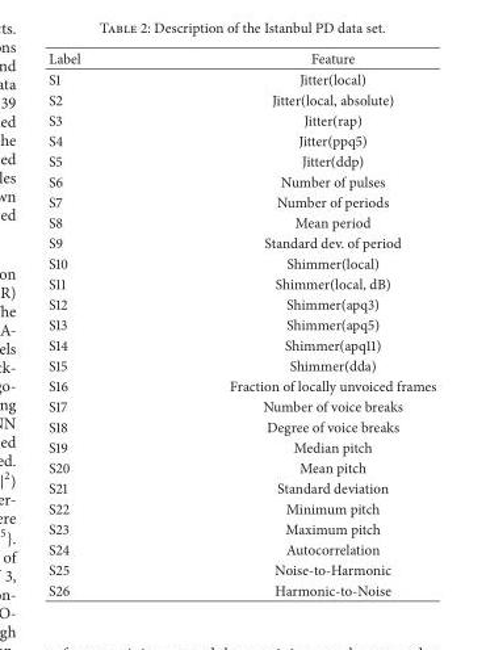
<table><thead><tr><td>Label</td><td>Feature</td></tr></thead><tbody><tr><td>S1</td><td>Jitter(local)</td></tr><tr><td>S2</td><td>Jitter(local, absolute)</td></tr><tr><td>S3</td><td>Jitter(rap)</td></tr><tr><td>S4</td><td>Jitter(ppq5)</td></tr><tr><td>S5</td><td>Jitter(ddp)</td></tr><tr><td>S6</td><td>Number of pulses</td></tr><tr><td>S7</td><td>Number of periods</td></tr><tr><td>S8</td><td>Mean period</td></tr><tr><td>S9</td><td>Standard dev. of period</td></tr><tr><td>S10</td><td>Shimmer(local)</td></tr><tr><td>S11</td><td>Shimmer(local, dB)</td></tr><tr><td>S12</td><td>Shimmer(apq3)</td></tr><tr><td>S13</td><td>Shimmer(apq5)</td></tr><tr><td>S14</td><td>Shimmer(apq11)</td></tr><tr><td>S15</td><td>Shimmer(dda)</td></tr><tr><td>S16</td><td>Fraction of locally unvoiced frames</td></tr><tr><td>S17</td><td>Number of voice breaks</td></tr><tr><td>S18</td><td>Degree of voice breaks</td></tr><tr><td>S19</td><td>Median pitch</td></tr><tr><td>S20</td><td>Mean pitch</td></tr><tr><td>S21</td><td>Standard deviation</td></tr><tr><td>S22</td><td>Minimum pitch</td></tr><tr><td>S23</td><td>Maximum pitch</td></tr><tr><td>S24</td><td>Autocorrelation</td></tr><tr><td>S25</td><td>Noise-to-Harmonic</td></tr><tr><td>S26</td><td>Harmonic-to-Noise</td></tr></tbody></table>